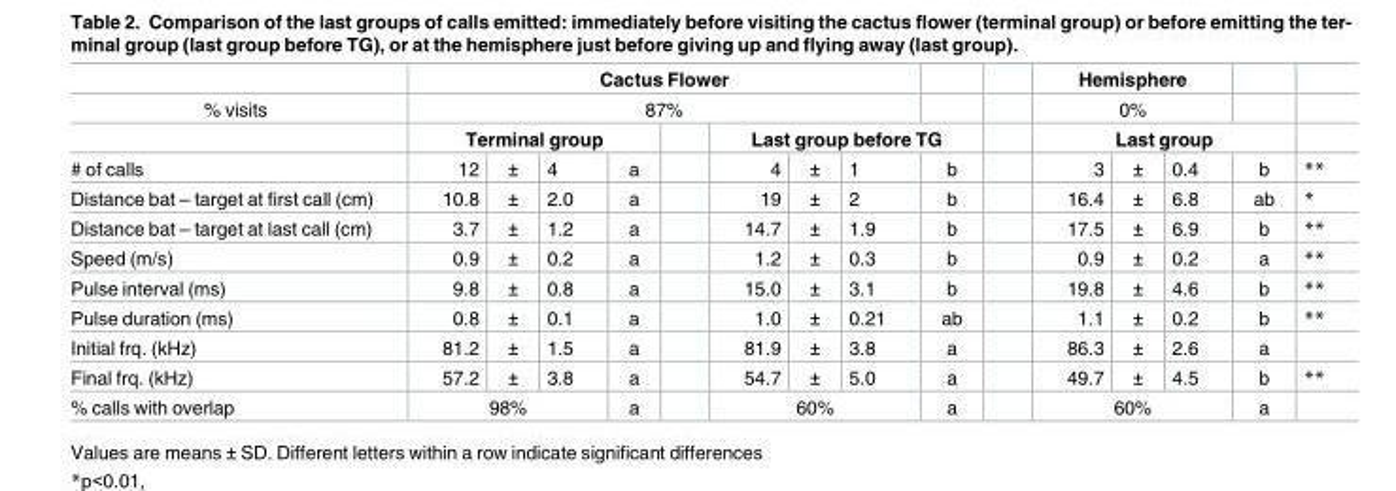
<table><thead><tr><td rowspan="4">% visits # of calls</td><td rowspan="2" colspan="7">Cactus Flower 87%</td><td rowspan="2"></td><td rowspan="2" colspan="3">Hemisphere 0%</td><td rowspan="2"></td><td rowspan="4">**</td></tr><tr></tr><tr><td colspan="4">Terminal group</td><td colspan="4">Last group before TG</td><td colspan="4">Last group</td></tr><tr><td>12</td><td>±</td><td>4</td><td>a</td><td>4</td><td>±</td><td>1</td><td>b</td><td>3</td><td>±</td><td>0.4</td><td>b</td></tr></thead><tbody><tr><td>Distance bat – target at first call (cm)</td><td>10.8</td><td>±</td><td>2.0</td><td>a</td><td>19</td><td>±</td><td>2</td><td>b</td><td>16.4</td><td>±</td><td>6.8</td><td>ab</td><td>*</td></tr><tr><td>Distance bat – target at last call (cm)</td><td>3.7</td><td>±</td><td>1.2</td><td>a</td><td>14.7</td><td>±</td><td>1.9</td><td>b</td><td>17.5</td><td>±</td><td>6.9</td><td>b</td><td>**</td></tr><tr><td>Speed (m/s)</td><td>0.9</td><td>±</td><td>0.2</td><td>a</td><td>1.2</td><td>±</td><td>0.3</td><td>b</td><td>0.9</td><td>±</td><td>0.2</td><td>a</td><td>**</td></tr><tr><td>Pulse interval (ms)</td><td>9.8</td><td>±</td><td>0.8</td><td>a</td><td>15.0</td><td>±</td><td>3.1</td><td>b</td><td>19.8</td><td>±</td><td>4.6</td><td>b</td><td>**</td></tr><tr><td>Pulse duration (ms)</td><td>0.8</td><td>±</td><td>0.1</td><td>a</td><td>1.0</td><td>±</td><td>0.21</td><td>ab</td><td>1.1</td><td>±</td><td>0.2</td><td>b</td><td>**</td></tr><tr><td>Initial frq. (kHz)</td><td>81.2</td><td>±</td><td>1.5</td><td>a</td><td>81.9</td><td>±</td><td>3.8</td><td>a</td><td>86.3</td><td>±</td><td>2.6</td><td>a</td><td></td></tr><tr><td>Final frq. (kHz)</td><td>57.2</td><td>±</td><td>3.8</td><td>a</td><td>54.7</td><td>±</td><td>5.0</td><td>a</td><td>49.7</td><td>±</td><td>4.5</td><td>b</td><td>**</td></tr><tr><td>% calls with overlap</td><td colspan="3">98%</td><td>a</td><td colspan="3">60%</td><td>a</td><td colspan="3">60%</td><td>a</td><td></td></tr></tbody></table>